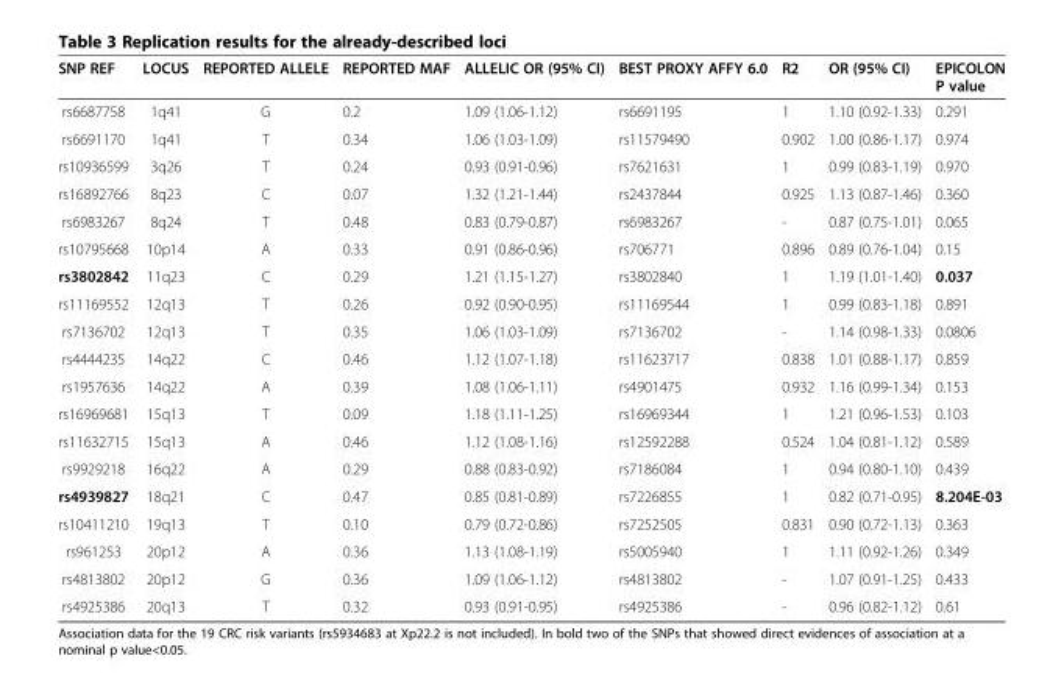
<table><thead><tr><td>SNP REF</td><td>LOCUS</td><td>REPORTED ALLELE</td><td>REPORTED MAF</td><td>ALLELIC OR (95% CI)</td><td>BEST PROXY AFFY 6.0</td><td>R2</td><td>OR (95% CI)</td><td>EPICOLON P value</td></tr></thead><tbody><tr><td>rs6687758</td><td>1q41</td><td>G</td><td>0.2</td><td>1.09 (1.06-1.12)</td><td>rs6691195</td><td>1</td><td>1.10 (0.92-1.33)</td><td>0.291</td></tr><tr><td>rs6691170</td><td>1q41</td><td>T</td><td>0.34</td><td>1.06 (1.03-1.09)</td><td>rs11579490</td><td>0.902</td><td>1.00 (0.86-1.17)</td><td>0.974</td></tr><tr><td>rs10936599</td><td>3q26</td><td>T</td><td>0.24</td><td>0.93 (0.91-0.96)</td><td>rs7621631</td><td>1</td><td>0.99 (0.83-1.19)</td><td>0.970</td></tr><tr><td>rs16892766</td><td>8q23</td><td>C</td><td>0.07</td><td>1.32 (1.21-1.44)</td><td>rs2437844</td><td>0.925</td><td>1.13 (0.87-1.46)</td><td>0.360</td></tr><tr><td>rs6983267</td><td>8q24</td><td>T</td><td>0.48</td><td>0.83 (0.79-0.87)</td><td>rs6983267</td><td>-</td><td>0.87 (0.75-1.01)</td><td>0.065</td></tr><tr><td>rs10795668</td><td>10p14</td><td>A</td><td>0.33</td><td>0.91 (0.86-0.96)</td><td>rs706771</td><td>0.896</td><td>0.89 (0.76-1.04)</td><td>0.15</td></tr><tr><td>rs3802842</td><td>11q23</td><td>C</td><td>0.29</td><td>1.21 (1.15-1.27)</td><td>rs3802840</td><td>1</td><td>1.19 (1.01-1.40)</td><td>0.037</td></tr><tr><td>rs11169552</td><td>12q13</td><td>T</td><td>0.26</td><td>0.92 (0.90-0.95)</td><td>rs11169544</td><td>1</td><td>0.99 (0.83-1.18)</td><td>0.891</td></tr><tr><td>rs7136702</td><td>12q13</td><td>T</td><td>0.35</td><td>1.06 (1.03-1.09)</td><td>rs7136702</td><td>-</td><td>1.14 (0.98-1.33)</td><td>0.0806</td></tr><tr><td>rs4444235</td><td>14q22</td><td>C</td><td>0.46</td><td>1.12 (1.07-1.18)</td><td>rs11623717</td><td>0.838</td><td>1.01 (0.88-1.17)</td><td>0.859</td></tr><tr><td>rs1957636</td><td>14q22</td><td>A</td><td>0.39</td><td>1.08 (1.06-1.11)</td><td>rs4901475</td><td>0.932</td><td>1.16 (0.99-1.34)</td><td>0.153</td></tr><tr><td>rs16969681</td><td>15q13</td><td>T</td><td>0.09</td><td>1.18 (1.11-1.25)</td><td>rs16969344</td><td>1</td><td>1.21 (0.96-1.53)</td><td>0.103</td></tr><tr><td>rs11632715</td><td>15q13</td><td>A</td><td>0.46</td><td>1.12 (1.08-1.16)</td><td>rs12592288</td><td>0.524</td><td>1.04 (0.81-1.12)</td><td>0.589</td></tr><tr><td>rs9929218</td><td>16q22</td><td>A</td><td>0.29</td><td>0.88 (0.83-0.92)</td><td>rs7186084</td><td>1</td><td>0.94 (0.80-1.10)</td><td>0.439</td></tr><tr><td>rs4939827</td><td>18q21</td><td>C</td><td>0.47</td><td>0.85 (0.81-0.89)</td><td>rs7226855</td><td>1</td><td>0.82 (0.71-0.95)</td><td>8.204E-03</td></tr><tr><td>rs10411210</td><td>19q13</td><td>T</td><td>0.10</td><td>0.79 (0.72-0.86)</td><td>rs7252505</td><td>0.831</td><td>0.90 (0.72-1.13)</td><td>0.363</td></tr><tr><td>rs961253</td><td>20p12</td><td>A</td><td>0.36</td><td>1.13 (1.08-1.19)</td><td>rs5005940</td><td>1</td><td>1.11 (0.92-1.26)</td><td>0.349</td></tr><tr><td>rs4813802</td><td>20p12</td><td>G</td><td>0.36</td><td>1.09 (1.06-1.12)</td><td>rs4813802</td><td>-</td><td>1.07 (0.91-1.25)</td><td>0.433</td></tr><tr><td>rs4925386</td><td>20q13</td><td>T</td><td>0.32</td><td>0.93 (0.91-0.95)</td><td>rs4925386</td><td>-</td><td>0.96 (0.82-1.12)</td><td>0.61</td></tr></tbody></table>